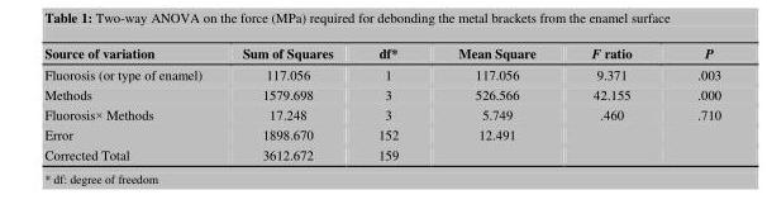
<table><thead><tr><td>Source of variation</td><td>Sum of Squares</td><td>df*</td><td>Mean Square</td><td>F ratio</td><td>P</td></tr></thead><tbody><tr><td>Fluorosis (or type of enamel)</td><td>117.056</td><td>1</td><td>117.056</td><td>9.371</td><td>.003</td></tr><tr><td>Methods</td><td>1579.698</td><td>3</td><td>526.566</td><td>42.155</td><td>.000</td></tr><tr><td>Fluorosis× Methods</td><td>17.248</td><td>3</td><td>5.749</td><td>.460</td><td>.710</td></tr><tr><td>Error</td><td>1898.670</td><td>152</td><td>12.491</td><td></td><td></td></tr><tr><td>Corrected Total</td><td>3612.672</td><td>159</td><td></td><td></td><td></td></tr></tbody></table>